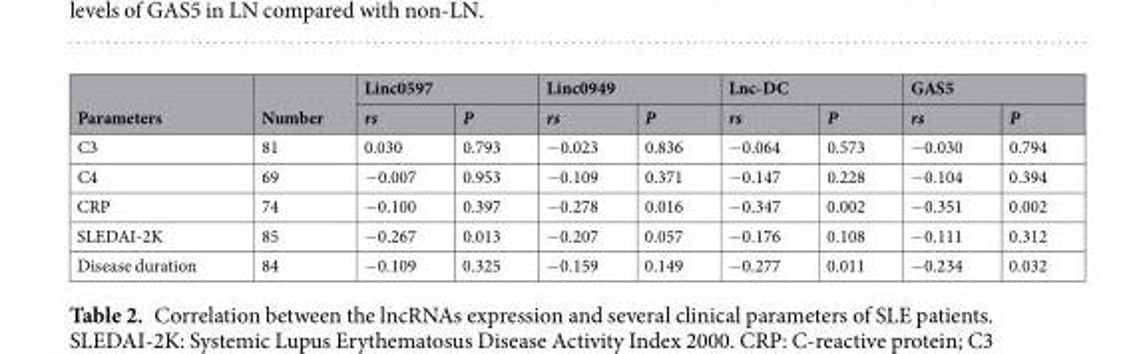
<table><thead><tr><td rowspan="2">Parameters</td><td rowspan="2">Number</td><td colspan="2">Linc0597</td><td colspan="2">Linc0949</td><td colspan="2">Lnc-DC</td><td colspan="2">GAS5</td></tr><tr><td>rs</td><td>P</td><td>rs</td><td>P</td><td>rs</td><td>P</td><td>rs</td><td>P</td></tr></thead><tbody><tr><td>C3</td><td>81</td><td>0.030</td><td>0.793</td><td>−0.023</td><td>0.836</td><td>−0.064</td><td>0.573</td><td>−0.030</td><td>0.794</td></tr><tr><td>C4</td><td>69</td><td>−0.007</td><td>0.953</td><td>−0.109</td><td>0.371</td><td>−0.147</td><td>0.228</td><td>−0.104</td><td>0.394</td></tr><tr><td>CRP</td><td>74</td><td>−0.100</td><td>0.397</td><td>−0.278</td><td>0.016</td><td>−0.347</td><td>0.002</td><td>−0.351</td><td>0.002</td></tr><tr><td>SLEDAI-2K</td><td>85</td><td>−0.267</td><td>0.013</td><td>−0.207</td><td>0.057</td><td>−0.176</td><td>0.108</td><td>−0.111</td><td>0.312</td></tr><tr><td>Disease duration</td><td>84</td><td>−0.109</td><td>0.325</td><td>−0.159</td><td>0.149</td><td>−0.277</td><td>0.011</td><td>−0.234</td><td>0.032</td></tr></tbody></table>